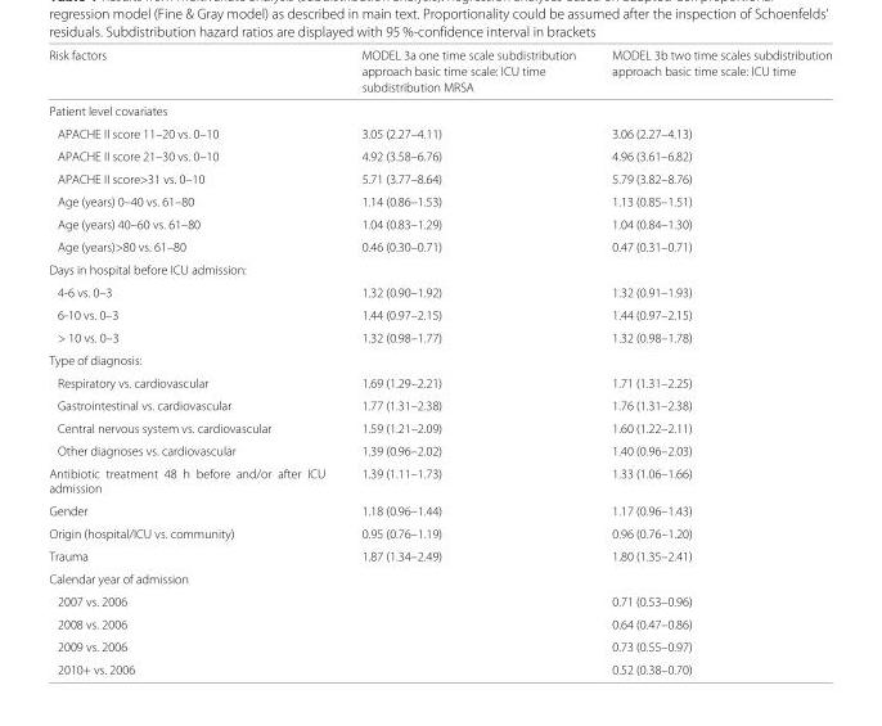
<table><thead><tr><td rowspan="3">Risk factors</td><td rowspan="3">MODEL 3a one time scale subdistribution approach basic time scale: ICU time subdistribution MRSA</td><td rowspan="3">MODEL 3b two time scales subdistribution approach basic time scale: ICU time</td></tr><tr></tr><tr></tr></thead><tbody><tr><td colspan="3">Patient level covariates</td></tr><tr><td>APACHE II score 11–20 vs. 0–10</td><td>3.05 (2.27–4.11)</td><td>3.06 (2.27–4.13)</td></tr><tr><td>APACHE II score 21–30 vs. 0–10</td><td>4.92 (3.58–6.76)</td><td>4.96 (3.61–6.82)</td></tr><tr><td>APACHE II score&gt;31 vs. 0–10</td><td>5.71 (3.77–8.64)</td><td>5.79 (3.82–8.76)</td></tr><tr><td>Age (years) 0–40 vs. 61–80</td><td>1.14 (0.86–1.53)</td><td>1.13 (0.85–1.51)</td></tr><tr><td>Age (years) 40–60 vs. 61–80</td><td>1.04 (0.83–1.29)</td><td>1.04 (0.84–1.30)</td></tr><tr><td>Age (years)&gt;80 vs. 61–80</td><td>0.46 (0.30–0.71)</td><td>0.47 (0.31–0.71)</td></tr><tr><td colspan="3">Days in hospital before ICU admission:</td></tr><tr><td>4-6 vs. 0–3</td><td>1.32 (0.90–1.92)</td><td>1.32 (0.91–1.93)</td></tr><tr><td>6-10 vs. 0–3</td><td>1.44 (0.97–2.15)</td><td>1.44 (0.97–2.15)</td></tr><tr><td>&gt; 10 vs. 0–3</td><td>1.32 (0.98–1.77)</td><td>1.32 (0.98–1.78)</td></tr><tr><td colspan="3">Type of diagnosis:</td></tr><tr><td>Respiratory vs. cardiovascular</td><td>1.69 (1.29–2.21)</td><td>1.71 (1.31–2.25)</td></tr><tr><td>Gastrointestinal vs. cardiovascular</td><td>1.77 (1.31–2.38)</td><td>1.76 (1.31–2.38)</td></tr><tr><td>Central nervous system vs. cardiovascular</td><td>1.59 (1.21–2.09)</td><td>1.60 (1.22–2.11)</td></tr><tr><td>Other diagnoses vs. cardiovascular</td><td>1.39 (0.96–2.02)</td><td>1.40 (0.96–2.03)</td></tr><tr><td>Antibiotic treatment 48 h before and/or after ICU admission</td><td>1.39 (1.11–1.73)</td><td>1.33 (1.06–1.66)</td></tr><tr><td>Gender</td><td>1.18 (0.96–1.44)</td><td>1.17 (0.96–1.43)</td></tr><tr><td>Origin (hospital/ICU vs. community)</td><td>0.95 (0.76–1.19)</td><td>0.96 (0.76–1.20)</td></tr><tr><td>Trauma</td><td>1.87 (1.34–2.49)</td><td>1.80 (1.35–2.41)</td></tr><tr><td colspan="3">Calendar year of admission</td></tr><tr><td>2007 vs. 2006</td><td></td><td>0.71 (0.53–0.96)</td></tr><tr><td>2008 vs. 2006</td><td></td><td>0.64 (0.47–0.86)</td></tr><tr><td>2009 vs. 2006</td><td></td><td>0.73 (0.55–0.97)</td></tr><tr><td>2010+ vs. 2006</td><td></td><td>0.52 (0.38–0.70)</td></tr></tbody></table>